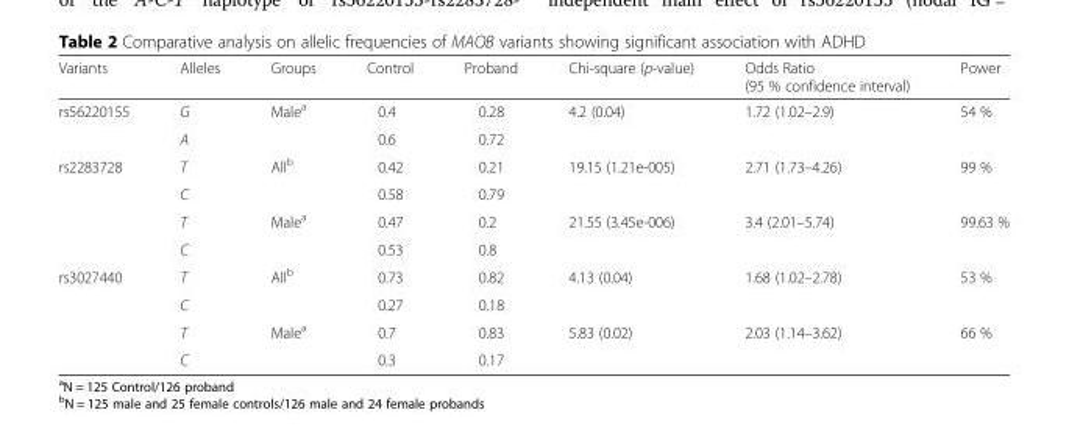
<table><thead><tr><td>Variants</td><td>Alleles</td><td>Groups</td><td>Control</td><td>Proband</td><td>Chi-square (p-value)</td><td>Odds Ratio (95 % confidence interval)</td><td>Power</td></tr></thead><tbody><tr><td rowspan="2">rs56220155</td><td>G</td><td>Male<sup>a</sup></td><td>0.4</td><td>0.28</td><td>4.2 (0.04)</td><td>1.72 (1.02–2.9)</td><td>54 %</td></tr><tr><td>A</td><td></td><td>0.6</td><td>0.72</td><td></td><td></td><td></td></tr><tr><td rowspan="4">rs2283728</td><td>T</td><td>All<sup>b</sup></td><td>0.42</td><td>0.21</td><td>19.15 (1.21e-005)</td><td>2.71 (1.73–4.26)</td><td>99 %</td></tr><tr><td>C</td><td></td><td>0.58</td><td>0.79</td><td></td><td></td><td></td></tr><tr><td>T</td><td>Male<sup>a</sup></td><td>0.47</td><td>0.2</td><td>21.55 (3.45e-006)</td><td>3.4 (2.01–5.74)</td><td>99.63 %</td></tr><tr><td>C</td><td></td><td>0.53</td><td>0.8</td><td></td><td></td><td></td></tr><tr><td rowspan="4">rs3027440</td><td>T</td><td>All<sup>b</sup></td><td>0.73</td><td>0.82</td><td>4.13 (0.04)</td><td>1.68 (1.02–2.78)</td><td>53 %</td></tr><tr><td>C</td><td></td><td>0.27</td><td>0.18</td><td></td><td></td><td></td></tr><tr><td>T</td><td>Male<sup>a</sup></td><td>0.7</td><td>0.83</td><td>5.83 (0.02)</td><td>2.03 (1.14–3.62)</td><td>66 %</td></tr><tr><td>C</td><td></td><td>0.3</td><td>0.17</td><td></td><td></td><td></td></tr></tbody></table>